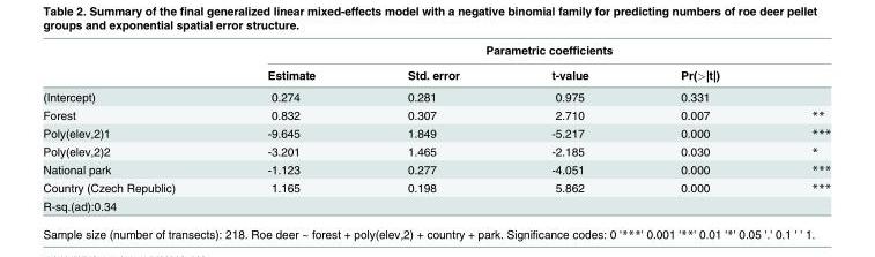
<table><thead><tr><td rowspan="2"></td><td colspan="5">Parametric coefficients</td></tr><tr><td>Estimate</td><td>Std. error</td><td>t-value</td><td>Pr(&gt;|t|)</td><td></td></tr></thead><tbody><tr><td>(Intercept)</td><td>0.274</td><td>0.281</td><td>0.975</td><td>0.331</td><td></td></tr><tr><td>Forest</td><td>0.832</td><td>0.307</td><td>2.710</td><td>0.007</td><td>**</td></tr><tr><td>Poly(elev,2)1</td><td>-9.645</td><td>1.849</td><td>-5.217</td><td>0.000</td><td>***</td></tr><tr><td>Poly(elev,2)2</td><td>-3.201</td><td>1.465</td><td>-2.185</td><td>0.030</td><td>*</td></tr><tr><td>National park</td><td>-1.123</td><td>0.277</td><td>-4.051</td><td>0.000</td><td>***</td></tr><tr><td>Country (Czech Republic)</td><td>1.165</td><td>0.198</td><td>5.862</td><td>0.000</td><td>***</td></tr><tr><td>R-sq.(ad):0.34</td><td></td><td></td><td></td><td></td><td></td></tr></tbody></table>